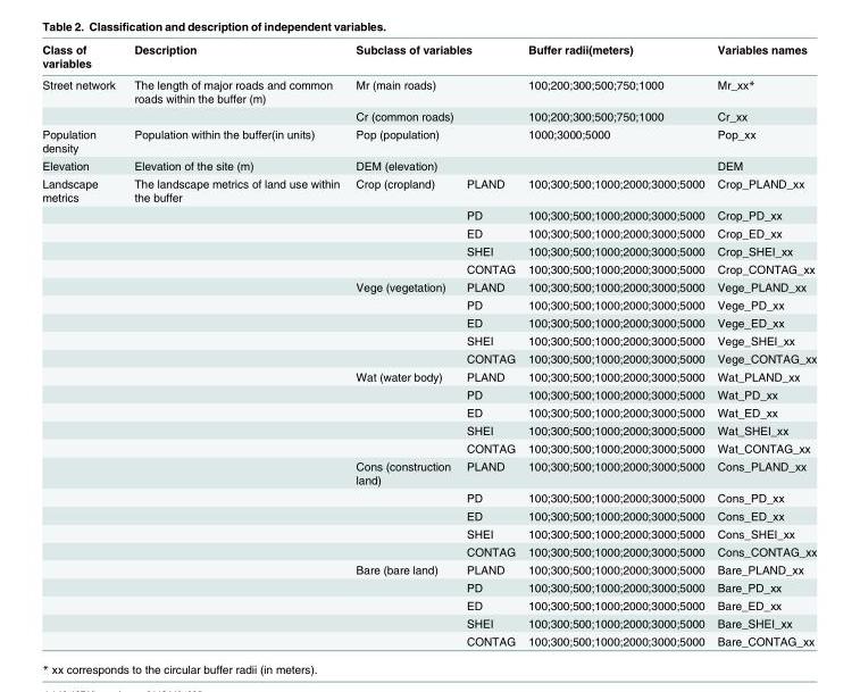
<table><thead><tr><td>Class of variables</td><td>Description</td><td colspan="2">Subclass of variables</td><td>Buffer radii(meters)</td><td>Variables names</td></tr></thead><tbody><tr><td rowspan="2">Street network</td><td>The length of major roads and common roads within the buffer (m)</td><td colspan="2">Mr (main roads)</td><td>100;200;300;500;750;1000</td><td>Mr_xx*</td></tr><tr><td></td><td colspan="2">Cr (common roads)</td><td>100;200;300;500;750;1000</td><td>Cr_xx</td></tr><tr><td>Population density</td><td>Population within the buffer(in units)</td><td colspan="2">Pop (population)</td><td>1000;3000;5000</td><td>Pop_xx</td></tr><tr><td>Elevation</td><td>Elevation of the site (m)</td><td colspan="2">DEM (elevation)</td><td></td><td>DEM</td></tr><tr><td rowspan="25">Landscape metrics</td><td>The landscape metrics of land use within the buffer</td><td>Crop (cropland)</td><td>PLAND</td><td>100;300;500;1000;2000;3000;5000</td><td>Crop_PLAND_xx</td></tr><tr><td></td><td></td><td>PD</td><td>100;300;500;1000;2000;3000;5000</td><td>Crop_PD_xx</td></tr><tr><td></td><td></td><td>ED</td><td>100;300;500;1000;2000;3000;5000</td><td>Crop_ED_xx</td></tr><tr><td></td><td></td><td>SHEI</td><td>100;300;500;1000;2000;3000;5000</td><td>Crop_SHEI_xx</td></tr><tr><td></td><td></td><td>CONTAG</td><td>100;300;500;1000;2000;3000;5000</td><td>Crop_CONTAG_xx</td></tr><tr><td></td><td>Vege (vegetation)</td><td>PLAND</td><td>100;300;500;1000;2000;3000;5000</td><td>Vege_PLAND_xx</td></tr><tr><td></td><td></td><td>PD</td><td>100;300;500;1000;2000;3000;5000</td><td>Vege_PD_xx</td></tr><tr><td></td><td></td><td>ED</td><td>100;300;500;1000;2000;3000;5000</td><td>Vege_ED_xx</td></tr><tr><td></td><td></td><td>SHEI</td><td>100;300;500;1000;2000;3000;5000</td><td>Vege_SHEI_xx</td></tr><tr><td></td><td></td><td>CONTAG</td><td>100;300;500;1000;2000;3000;5000</td><td>Vege_CONTAG_xx</td></tr><tr><td></td><td>Wat (water body)</td><td>PLAND</td><td>100;300;500;1000;2000;3000;5000</td><td>Wat_PLAND_xx</td></tr><tr><td></td><td></td><td>PD</td><td>100;300;500;1000;2000;3000;5000</td><td>Wat_PD_xx</td></tr><tr><td></td><td></td><td>ED</td><td>100;300;500;1000;2000;3000;5000</td><td>Wat_ED_xx</td></tr><tr><td></td><td></td><td>SHEI</td><td>100;300;500;1000;2000;3000;5000</td><td>Wat_SHEI_xx</td></tr><tr><td></td><td></td><td>CONTAG</td><td>100;300;500;1000;2000;3000;5000</td><td>Wat_CONTAG_xx</td></tr><tr><td></td><td>Cons (construction land)</td><td>PLAND</td><td>100;300;500;1000;2000;3000;5000</td><td>Cons_PLAND_xx</td></tr><tr><td></td><td></td><td>PD</td><td>100;300;500;1000;2000;3000;5000</td><td>Cons_PD_xx</td></tr><tr><td></td><td></td><td>ED</td><td>100;300;500;1000;2000;3000;5000</td><td>Cons_ED_xx</td></tr><tr><td></td><td></td><td>SHEI</td><td>100;300;500;1000;2000;3000;5000</td><td>Cons_SHEI_xx</td></tr><tr><td></td><td></td><td>CONTAG</td><td>100;300;500;1000;2000;3000;5000</td><td>Cons_CONTAG_xx</td></tr><tr><td></td><td>Bare (bare land)</td><td>PLAND</td><td>100;300;500;1000;2000;3000;5000</td><td>Bare_PLAND_xx</td></tr><tr><td></td><td></td><td>PD</td><td>100;300;500;1000;2000;3000;5000</td><td>Bare_PD_xx</td></tr><tr><td></td><td></td><td>ED</td><td>100;300;500;1000;2000;3000;5000</td><td>Bare_ED_xx</td></tr><tr><td></td><td></td><td>SHEI</td><td>100;300;500;1000;2000;3000;5000</td><td>Bare_SHEI_xx</td></tr><tr><td></td><td></td><td>CONTAG</td><td>100;300;500;1000;2000;3000;5000</td><td>Bare_CONTAG_xx</td></tr></tbody></table>